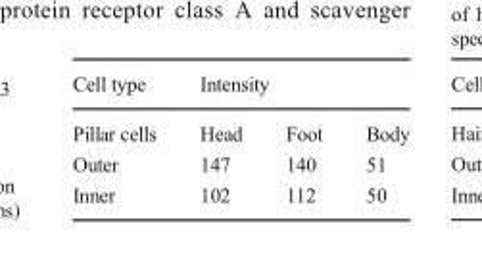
<table><thead><tr><td rowspan="2">Cell type Pillar cells</td><td colspan="3">Intensity</td></tr><tr><td>Head</td><td>Foot</td><td>Body</td></tr></thead><tbody><tr><td>Outer</td><td>147</td><td>140</td><td>51</td></tr><tr><td>Inner</td><td>102</td><td>112</td><td>50</td></tr></tbody></table>